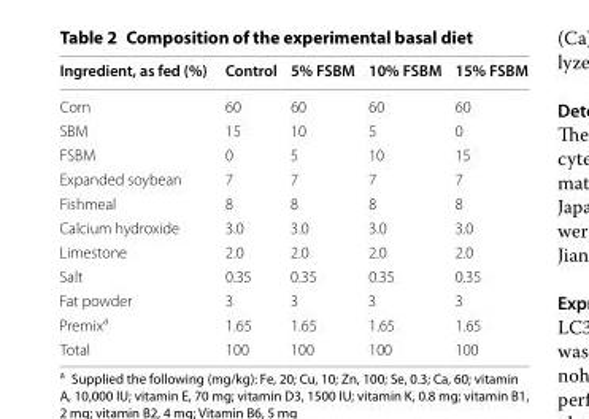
<table><thead><tr><td>Ingredient, as fed (%)</td><td>Control</td><td>5% FSBM</td><td>10% FSBM</td><td>15% FSBM</td></tr></thead><tbody><tr><td>Corn</td><td>60</td><td>60</td><td>60</td><td>60</td></tr><tr><td>SBM</td><td>15</td><td>10</td><td>5</td><td>0</td></tr><tr><td>FSBM</td><td>0</td><td>5</td><td>10</td><td>15</td></tr><tr><td>Expanded soybean</td><td>7</td><td>7</td><td>7</td><td>7</td></tr><tr><td>Fishmeal</td><td>8</td><td>8</td><td>8</td><td>8</td></tr><tr><td>Calcium hydroxide</td><td>3.0</td><td>3.0</td><td>3.0</td><td>3.0</td></tr><tr><td>Limestone</td><td>2.0</td><td>2.0</td><td>2.0</td><td>2.0</td></tr><tr><td>Salt</td><td>0.35</td><td>0.35</td><td>0.35</td><td>0.35</td></tr><tr><td>Fat powder</td><td>3</td><td>3</td><td>3</td><td>3</td></tr><tr><td>Premix<sup>a</sup></td><td>1.65</td><td>1.65</td><td>1.65</td><td>1.65</td></tr><tr><td>Total</td><td>100</td><td>100</td><td>100</td><td>100</td></tr></tbody></table>